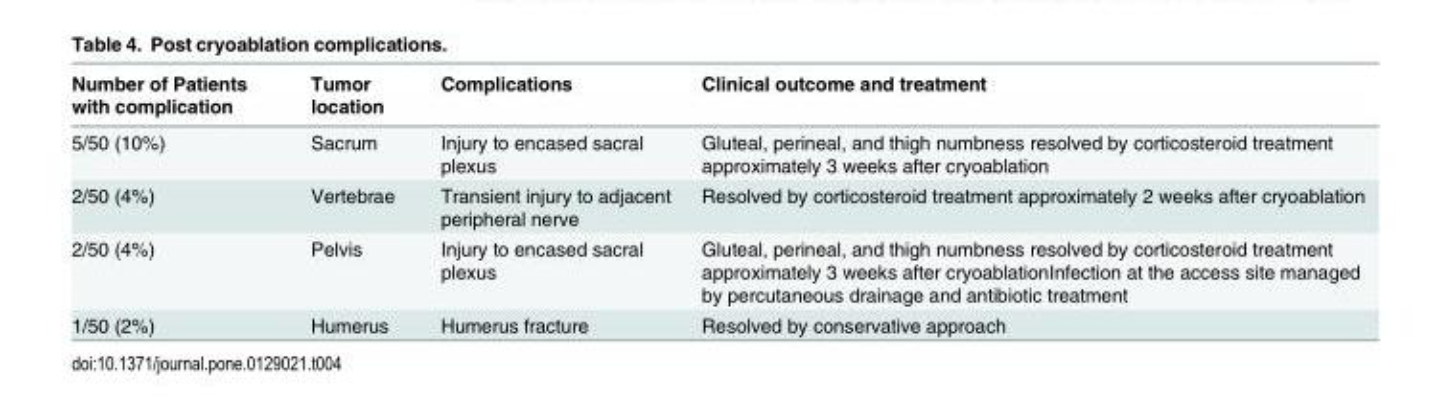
<table><thead><tr><td>Number of Patients with complication</td><td>Tumor location</td><td>Complications</td><td>Clinical outcome and treatment</td></tr></thead><tbody><tr><td>5/50 (10%)</td><td>Sacrum</td><td>Injury to encased sacral plexus</td><td>Gluteal, perineal, and thigh numbness resolved by corticosteroid treatment approximately 3 weeks after cryoablation</td></tr><tr><td>2/50 (4%)</td><td>Vertebrae</td><td>Transient injury to adjacent peripheral nerve</td><td>Resolved by corticosteroid treatment approximately 2 weeks after cryoablation</td></tr><tr><td>2/50 (4%)</td><td>Pelvis</td><td>Injury to encased sacral plexus</td><td>Gluteal, perineal, and thigh numbness resolved by corticosteroid treatment approximately 3 weeks after cryoablationInfection at the access site managed by percutaneous drainage and antibiotic treatment</td></tr><tr><td>1/50 (2%)</td><td>Humerus</td><td>Humerus fracture</td><td>Resolved by conservative approach</td></tr></tbody></table>